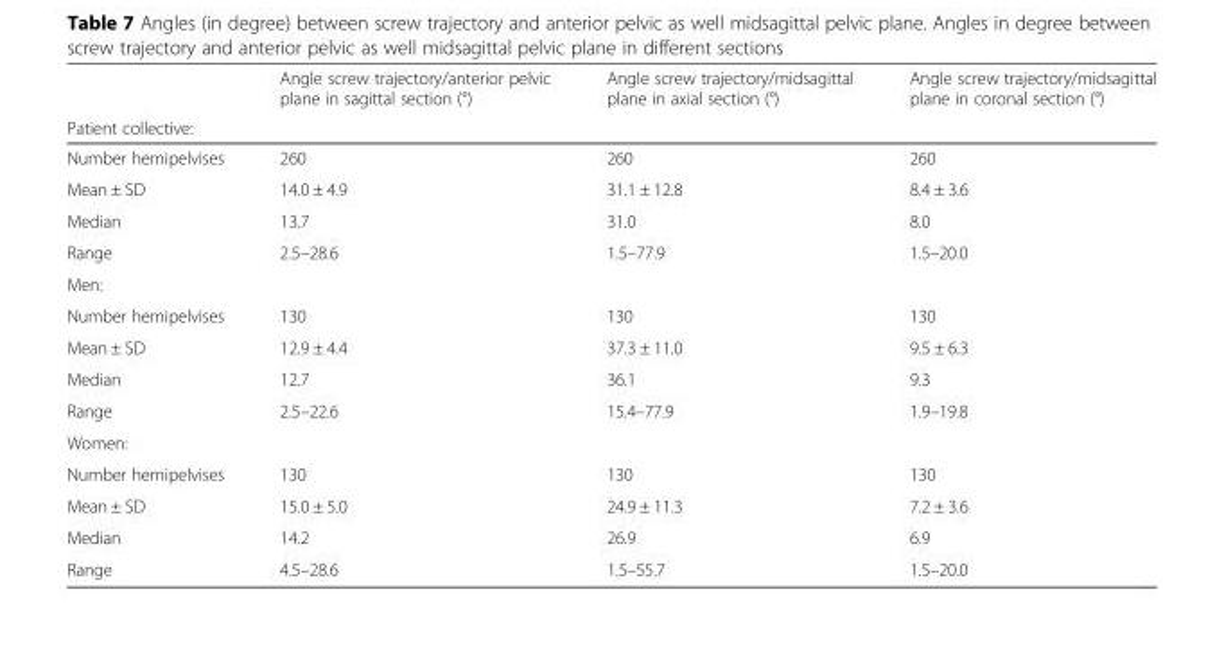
<table><thead><tr><td></td><td>Angle screw trajectory/anterior pelvic plane in sagittal section (°)</td><td rowspan="2">Angle screw trajectory/midsagittal plane in axial section (°)</td><td rowspan="2">Angle screw trajectory/midsagittal plane in coronal section (°)</td></tr><tr><td colspan="2">Patient collective:</td></tr></thead><tbody><tr><td>Number hemipelvises</td><td>260</td><td>260</td><td>260</td></tr><tr><td>Mean ± SD</td><td>14.0 ± 4.9</td><td>31.1 ± 12.8</td><td>8.4 ± 3.6</td></tr><tr><td>Median</td><td>13.7</td><td>31.0</td><td>8.0</td></tr><tr><td>Range</td><td>2.5–28.6</td><td>1.5–77.9</td><td>1.5–20.0</td></tr><tr><td colspan="4">Men:</td></tr><tr><td>Number hemipelvises</td><td>130</td><td>130</td><td>130</td></tr><tr><td>Mean ± SD</td><td>12.9 ± 4.4</td><td>37.3 ± 11.0</td><td>9.5 ± 6.3</td></tr><tr><td>Median</td><td>12.7</td><td>36.1</td><td>9.3</td></tr><tr><td>Range</td><td>2.5–22.6</td><td>15.4–77.9</td><td>1.9–19.8</td></tr><tr><td colspan="4">Women:</td></tr><tr><td>Number hemipelvises</td><td>130</td><td>130</td><td>130</td></tr><tr><td>Mean ± SD</td><td>15.0 ± 5.0</td><td>24.9 ± 11.3</td><td>7.2 ± 3.6</td></tr><tr><td>Median</td><td>14.2</td><td>26.9</td><td>6.9</td></tr><tr><td>Range</td><td>4.5–28.6</td><td>1.5–55.7</td><td>1.5–20.0</td></tr></tbody></table>